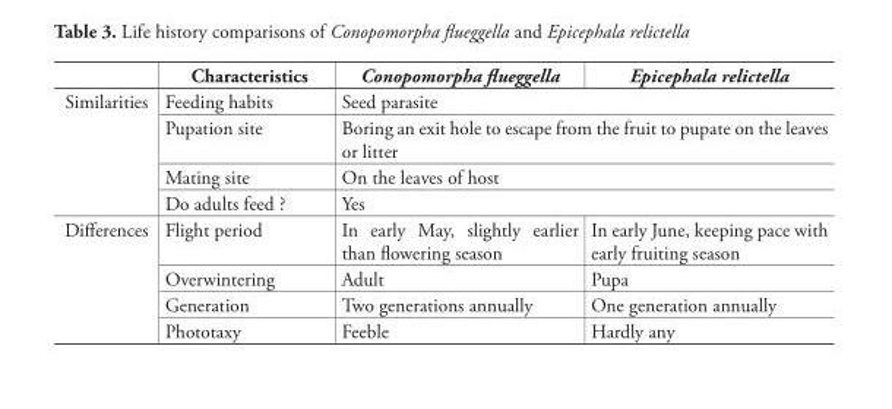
<table><thead><tr><td></td><td>Characteristics</td><td>Conopomorpha fl ueggella</td><td>Epicephala relictella</td></tr></thead><tbody><tr><td rowspan="4">Similarities</td><td>Feeding habits</td><td colspan="2">Seed parasite</td></tr><tr><td>Pupation site</td><td colspan="2">Boring an exit hole to escape from the fruit to pupate on the leaves or litter</td></tr><tr><td>Mating site</td><td colspan="2">On the leaves of host</td></tr><tr><td>Do adults feed ?</td><td colspan="2">Yes</td></tr><tr><td rowspan="4">Diff erences</td><td>Flight period</td><td>In early May, slightly earlier than fl owering season</td><td>In early June, keeping pace with early fruiting season</td></tr><tr><td>Overwintering</td><td>Adult</td><td>Pupa</td></tr><tr><td>Generation</td><td>Two generations annually</td><td>One generation annually</td></tr><tr><td>Phototaxy</td><td>Feeble</td><td>Hardly any</td></tr></tbody></table>